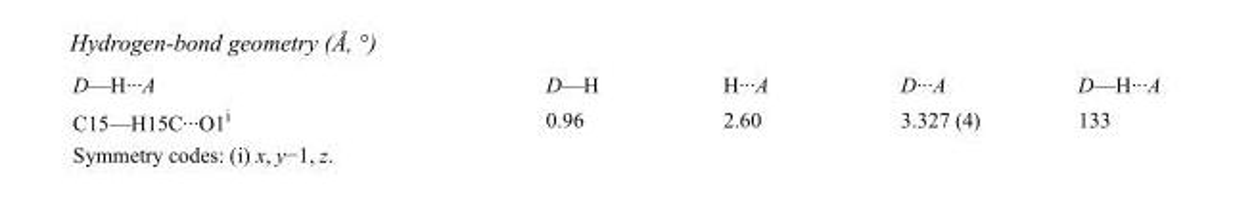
<table><tbody><tr><td>D—H···A</td><td>D—H</td><td>H···A</td><td>D···A</td><td>D—H···A</td></tr><tr><td>C15—H15C···O1<sup>i</sup></td><td>0.96</td><td>2.60</td><td>3.327 (4)</td><td>133</td></tr></tbody></table>